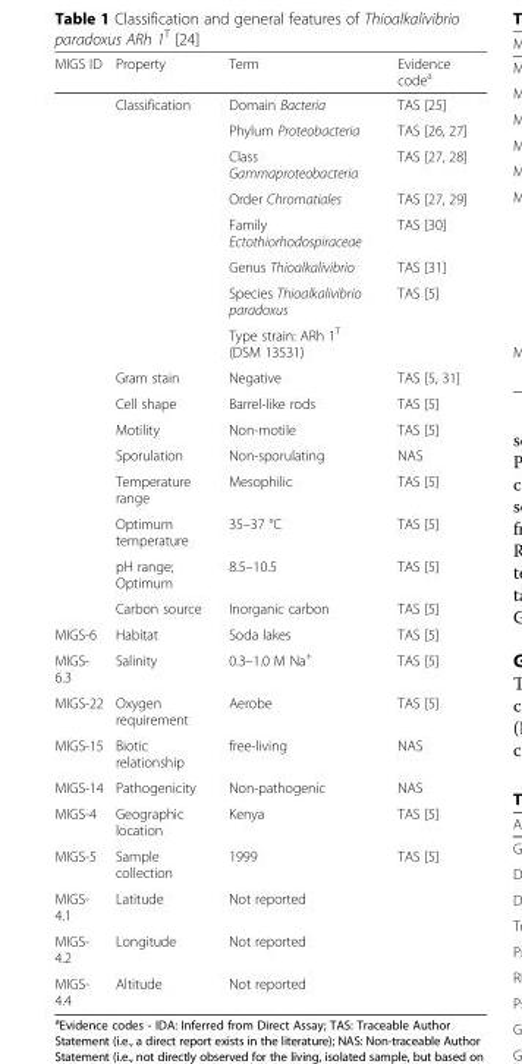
<table><thead><tr><td>MIGS ID</td><td>Property</td><td>Term</td><td>Evidence code<sup>a</sup></td></tr></thead><tbody><tr><td></td><td>Classification</td><td>Domain Bacteria</td><td>TAS [25]</td></tr><tr><td></td><td></td><td>Phylum Proteobacteria</td><td>TAS [26, 27]</td></tr><tr><td></td><td></td><td>Class Gammaproteobacteria</td><td>TAS [27, 28]</td></tr><tr><td></td><td></td><td>Order Chromatiales</td><td>TAS [27, 29]</td></tr><tr><td></td><td></td><td>Family Ectothiorhodospiraceae</td><td>TAS [30]</td></tr><tr><td></td><td></td><td>Genus Thioalkalivibrio</td><td>TAS [31]</td></tr><tr><td></td><td></td><td>Species Thioalkalivibrio paradoxus</td><td>TAS [5]</td></tr><tr><td></td><td></td><td>Type strain: ARh 1<sup>T</sup> (DSM 13531)</td><td></td></tr><tr><td></td><td>Gram stain</td><td>Negative</td><td>TAS [5, 31]</td></tr><tr><td></td><td>Cell shape</td><td>Barrel-like rods</td><td>TAS [5]</td></tr><tr><td></td><td>Motility</td><td>Non-motile</td><td>TAS [5]</td></tr><tr><td></td><td>Sporulation</td><td>Non-sporulating</td><td>NAS</td></tr><tr><td></td><td>Temperature range</td><td>Mesophilic</td><td>TAS [5]</td></tr><tr><td></td><td>Optimum temperature</td><td>35–37 °C</td><td>TAS [5]</td></tr><tr><td></td><td>pH range; Optimum</td><td>8.5–10.5</td><td>TAS [5]</td></tr><tr><td></td><td>Carbon source</td><td>Inorganic carbon</td><td>TAS [5]</td></tr><tr><td>MIGS-6</td><td>Habitat</td><td>Soda lakes</td><td>TAS [5]</td></tr><tr><td>MIGS- 6.3</td><td>Salinity</td><td>0.3–1.0 M Na<sup>+</sup></td><td>TAS [5]</td></tr><tr><td>MIGS-22</td><td>Oxygen requirement</td><td>Aerobe</td><td>TAS [5]</td></tr><tr><td>MIGS-15</td><td>Biotic relationship</td><td>free-living</td><td>NAS</td></tr><tr><td>MIGS-14</td><td>Pathogenicity</td><td>Non-pathogenic</td><td>NAS</td></tr><tr><td>MIGS-4</td><td>Geographic location</td><td>Kenya</td><td>TAS [5]</td></tr><tr><td>MIGS-5</td><td>Sample collection</td><td>1999</td><td>TAS [5]</td></tr><tr><td>MIGS- 4.1</td><td>Latitude</td><td>Not reported</td><td></td></tr><tr><td>MIGS- 4.2</td><td>Longitude</td><td>Not reported</td><td></td></tr><tr><td>MIGS- 4.4</td><td>Altitude</td><td>Not reported</td><td></td></tr></tbody></table>